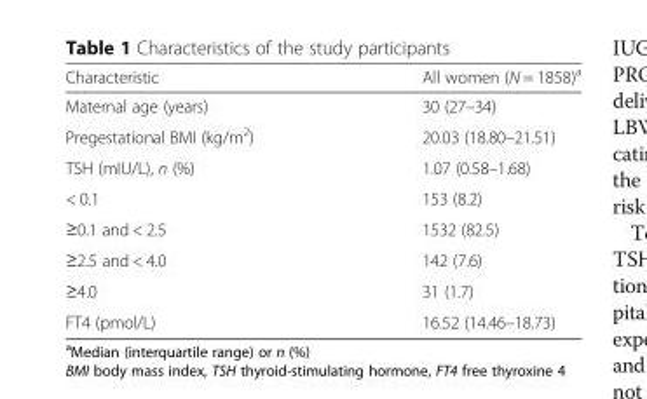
<table><thead><tr><td>Characteristic</td><td>All women (N = 1858)<sup>a</sup></td></tr></thead><tbody><tr><td>Maternal age (years)</td><td>30 (27–34)</td></tr><tr><td>Pregestational BMI (kg/m<sup>2</sup>)</td><td>20.03 (18.80–21.51)</td></tr><tr><td>TSH (mIU/L), n (%)</td><td>1.07 (0.58–1.68)</td></tr><tr><td>&lt; 0.1</td><td>153 (8.2)</td></tr><tr><td>≥0.1 and &lt; 2.5</td><td>1532 (82.5)</td></tr><tr><td>≥2.5 and &lt; 4.0</td><td>142 (7.6)</td></tr><tr><td>≥4.0</td><td>31 (1.7)</td></tr><tr><td>FT4 (pmol/L)</td><td>16.52 (14.46–18.73)</td></tr></tbody></table>